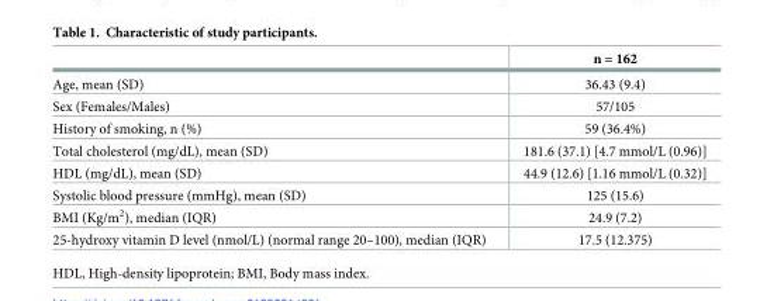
<table><thead><tr><td></td><td>n = 162</td></tr></thead><tbody><tr><td>Age, mean (SD)</td><td>36.43 (9.4)</td></tr><tr><td>Sex (Females/Males)</td><td>57/105</td></tr><tr><td>History of smoking, n (%)</td><td>59 (36.4%)</td></tr><tr><td>Total cholesterol (mg/dL), mean (SD)</td><td>181.6 (37.1) [4.7 mmol/L (0.96)]</td></tr><tr><td>HDL (mg/dL), mean (SD)</td><td>44.9 (12.6) [1.16 mmol/L (0.32)]</td></tr><tr><td>Systolic blood pressure (mmHg), mean (SD)</td><td>125 (15.6)</td></tr><tr><td>BMI (Kg/m<sup>2</sup>), median (IQR)</td><td>24.9 (7.2)</td></tr><tr><td>25-hydroxy vitamin D level (nmol/L) (normal range 20–100), median (IQR)</td><td>17.5 (12.375)</td></tr></tbody></table>